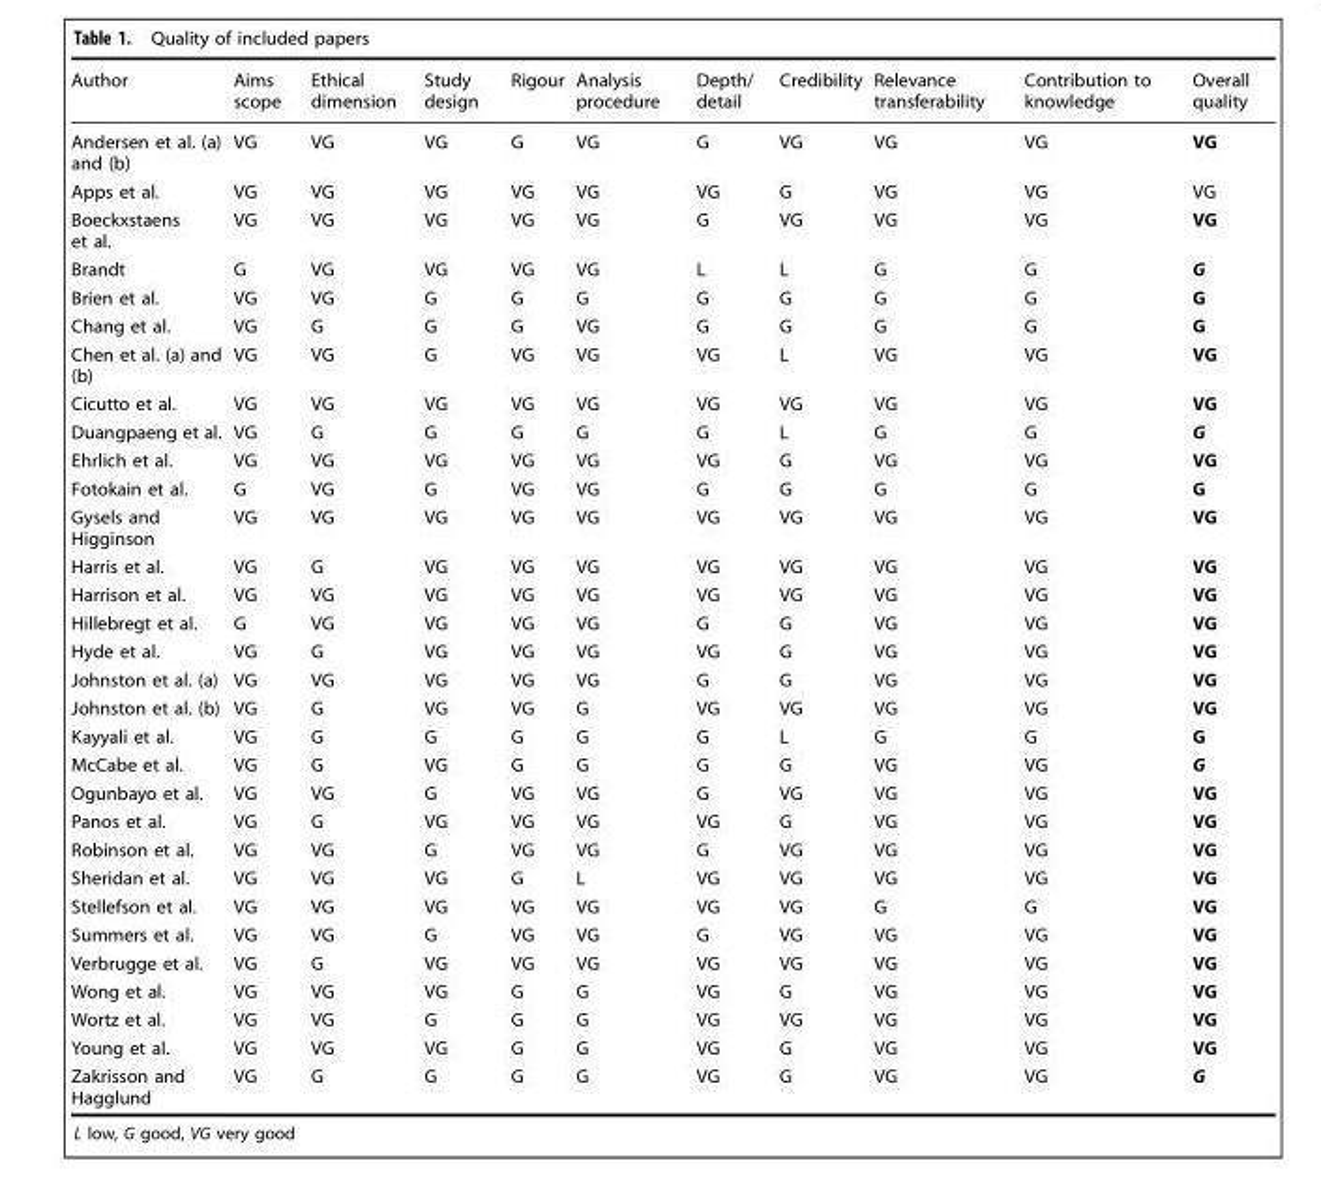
<table><thead><tr><td>Author</td><td>Aims scope</td><td>Ethical dimension</td><td>Study design</td><td>Rigour</td><td>Analysis procedure</td><td>Depth/ detail</td><td>Credibility</td><td>Relevance transferability</td><td>Contribution to knowledge</td><td>Overall quality</td></tr></thead><tbody><tr><td>Andersen et al. (a) and (b)</td><td>VG</td><td>VG</td><td>VG</td><td>G</td><td>VG</td><td>G</td><td>VG</td><td>VG</td><td>VG</td><td>VG</td></tr><tr><td>Apps et al.</td><td>VG</td><td>VG</td><td>VG</td><td>VG</td><td>VG</td><td>VG</td><td>G</td><td>VG</td><td>VG</td><td>VG</td></tr><tr><td>Boeckxstaens et al.</td><td>VG</td><td>VG</td><td>VG</td><td>VG</td><td>VG</td><td>G</td><td>VG</td><td>VG</td><td>VG</td><td>VG</td></tr><tr><td>Brandt</td><td>G</td><td>VG</td><td>VG</td><td>VG</td><td>VG</td><td>L</td><td>L</td><td>G</td><td>G</td><td>G</td></tr><tr><td>Brien et al.</td><td>VG</td><td>VG</td><td>G</td><td>G</td><td>G</td><td>G</td><td>G</td><td>G</td><td>G</td><td>G</td></tr><tr><td>Chang et al.</td><td>VG</td><td>G</td><td>G</td><td>G</td><td>VG</td><td>G</td><td>G</td><td>G</td><td>G</td><td>G</td></tr><tr><td>Chen et al. (a) and (b)</td><td>VG</td><td>VG</td><td>G</td><td>VG</td><td>VG</td><td>VG</td><td>L</td><td>VG</td><td>VG</td><td>VG</td></tr><tr><td>Cicutto et al.</td><td>VG</td><td>VG</td><td>VG</td><td>VG</td><td>VG</td><td>VG</td><td>VG</td><td>VG</td><td>VG</td><td>VG</td></tr><tr><td>Duangpaeng et al.</td><td>VG</td><td>G</td><td>G</td><td>G</td><td>G</td><td>G</td><td>L</td><td>G</td><td>G</td><td>G</td></tr><tr><td>Ehrlich et al.</td><td>VG</td><td>VG</td><td>VG</td><td>VG</td><td>VG</td><td>VG</td><td>G</td><td>VG</td><td>VG</td><td>VG</td></tr><tr><td>Fotokain et al.</td><td>G</td><td>VG</td><td>G</td><td>VG</td><td>VG</td><td>G</td><td>G</td><td>G</td><td>G</td><td>G</td></tr><tr><td>Gysels and Higginson</td><td>VG</td><td>VG</td><td>VG</td><td>VG</td><td>VG</td><td>VG</td><td>VG</td><td>VG</td><td>VG</td><td>VG</td></tr><tr><td>Harris et al.</td><td>VG</td><td>G</td><td>VG</td><td>VG</td><td>VG</td><td>VG</td><td>VG</td><td>VG</td><td>VG</td><td>VG</td></tr><tr><td>Harrison et al.</td><td>VG</td><td>VG</td><td>VG</td><td>VG</td><td>VG</td><td>VG</td><td>VG</td><td>VG</td><td>VG</td><td>VG</td></tr><tr><td>Hillebregt et al.</td><td>G</td><td>VG</td><td>VG</td><td>VG</td><td>VG</td><td>G</td><td>G</td><td>VG</td><td>VG</td><td>VG</td></tr><tr><td>Hyde et al.</td><td>VG</td><td>G</td><td>VG</td><td>VG</td><td>VG</td><td>VG</td><td>G</td><td>VG</td><td>VG</td><td>VG</td></tr><tr><td>Johnston et al. (a)</td><td>VG</td><td>VG</td><td>VG</td><td>VG</td><td>VG</td><td>G</td><td>G</td><td>VG</td><td>VG</td><td>VG</td></tr><tr><td>Johnston et al. (b)</td><td>VG</td><td>G</td><td>VG</td><td>VG</td><td>G</td><td>VG</td><td>VG</td><td>VG</td><td>VG</td><td>VG</td></tr><tr><td>Kayyali et al.</td><td>VG</td><td>G</td><td>G</td><td>G</td><td>G</td><td>G</td><td>L</td><td>G</td><td>G</td><td>G</td></tr><tr><td>McCabe et al.</td><td>VG</td><td>G</td><td>VG</td><td>G</td><td>G</td><td>G</td><td>G</td><td>VG</td><td>VG</td><td>G</td></tr><tr><td>Ogunbayo et al.</td><td>VG</td><td>VG</td><td>G</td><td>VG</td><td>VG</td><td>G</td><td>VG</td><td>VG</td><td>VG</td><td>VG</td></tr><tr><td>Panos et al.</td><td>VG</td><td>G</td><td>VG</td><td>VG</td><td>VG</td><td>VG</td><td>G</td><td>VG</td><td>VG</td><td>VG</td></tr><tr><td>Robinson et al.</td><td>VG</td><td>VG</td><td>G</td><td>VG</td><td>VG</td><td>G</td><td>VG</td><td>VG</td><td>VG</td><td>VG</td></tr><tr><td>Sheridan et al.</td><td>VG</td><td>VG</td><td>VG</td><td>G</td><td>L</td><td>VG</td><td>VG</td><td>VG</td><td>VG</td><td>VG</td></tr><tr><td>Stellefson et al.</td><td>VG</td><td>VG</td><td>VG</td><td>VG</td><td>VG</td><td>VG</td><td>VG</td><td>G</td><td>G</td><td>VG</td></tr><tr><td>Summers et al.</td><td>VG</td><td>VG</td><td>G</td><td>VG</td><td>VG</td><td>G</td><td>VG</td><td>VG</td><td>VG</td><td>VG</td></tr><tr><td>Verbrugge et al.</td><td>VG</td><td>G</td><td>VG</td><td>VG</td><td>VG</td><td>VG</td><td>VG</td><td>VG</td><td>VG</td><td>VG</td></tr><tr><td>Wong et al.</td><td>VG</td><td>VG</td><td>VG</td><td>G</td><td>G</td><td>VG</td><td>G</td><td>VG</td><td>VG</td><td>VG</td></tr><tr><td>Wortz et al.</td><td>VG</td><td>VG</td><td>G</td><td>G</td><td>G</td><td>VG</td><td>VG</td><td>VG</td><td>VG</td><td>VG</td></tr><tr><td>Young et al.</td><td>VG</td><td>VG</td><td>VG</td><td>G</td><td>G</td><td>VG</td><td>G</td><td>VG</td><td>VG</td><td>VG</td></tr><tr><td>Zakrisson and Hagglund</td><td>VG</td><td>G</td><td>G</td><td>G</td><td>G</td><td>VG</td><td>G</td><td>VG</td><td>VG</td><td>G</td></tr></tbody></table>